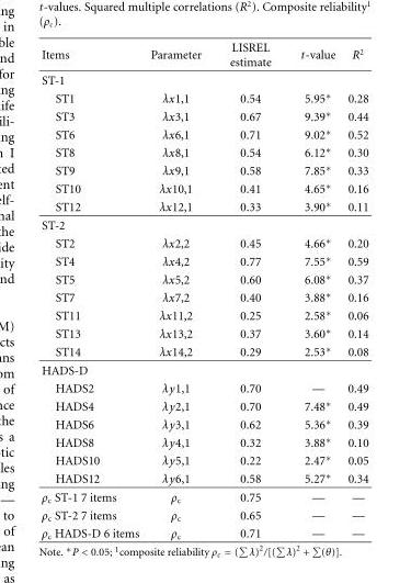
<table><thead><tr><td>Items</td><td>Parameter</td><td>LISREL estimate</td><td>t-value</td><td>R<sup>2</sup></td></tr></thead><tbody><tr><td colspan="5">ST-1</td></tr><tr><td>ST1</td><td>λx1,1</td><td>0.54</td><td>5.95∗</td><td>0.28</td></tr><tr><td>ST3</td><td>λx3,1</td><td>0.67</td><td>9.39∗</td><td>0.44</td></tr><tr><td>ST6</td><td>λx6,1</td><td>0.71</td><td>9.02∗</td><td>0.52</td></tr><tr><td>ST8</td><td>λx8,1</td><td>0.54</td><td>6.12∗</td><td>0.30</td></tr><tr><td>ST9</td><td>λx9,1</td><td>0.58</td><td>7.85∗</td><td>0.33</td></tr><tr><td>ST10</td><td>λx10,1</td><td>0.41</td><td>4.65∗</td><td>0.16</td></tr><tr><td>ST12</td><td>λx12,1</td><td>0.33</td><td>3.90∗</td><td>0.11</td></tr><tr><td colspan="5">ST-2</td></tr><tr><td>ST2</td><td>λx2,2</td><td>0.45</td><td>4.66∗</td><td>0.20</td></tr><tr><td>ST4</td><td>λx4,2</td><td>0.77</td><td>7.55∗</td><td>0.59</td></tr><tr><td>ST5</td><td>λx5,2</td><td>0.60</td><td>6.08∗</td><td>0.37</td></tr><tr><td>ST7</td><td>λx7,2</td><td>0.40</td><td>3.88∗</td><td>0.16</td></tr><tr><td>ST11</td><td>λx11,2</td><td>0.25</td><td>2.58∗</td><td>0.06</td></tr><tr><td>ST13</td><td>λx13,2</td><td>0.37</td><td>3.60∗</td><td>0.14</td></tr><tr><td>ST14</td><td>λx14,2</td><td>0.29</td><td>2.53∗</td><td>0.08</td></tr><tr><td colspan="5">HADS-D</td></tr><tr><td>HADS2</td><td>λy1,1</td><td>0.70</td><td>—</td><td>0.49</td></tr><tr><td>HADS4</td><td>λy2,1</td><td>0.70</td><td>7.48∗</td><td>0.49</td></tr><tr><td>HADS6</td><td>λy3,1</td><td>0.62</td><td>5.36∗</td><td>0.39</td></tr><tr><td>HADS8</td><td>λy4,1</td><td>0.32</td><td>3.88∗</td><td>0.10</td></tr><tr><td>HADS10</td><td>λy5,1</td><td>0.22</td><td>2.47∗</td><td>0.05</td></tr><tr><td>HADS12</td><td>λy6,1</td><td>0.58</td><td>5.27∗</td><td>0.34</td></tr><tr><td>ρ<sub>c</sub> ST-1 7 items</td><td>ρ<sub>c</sub></td><td>0.75</td><td>—</td><td>—</td></tr><tr><td>ρ<sub>c</sub> ST-2 7 items</td><td>ρ<sub>c</sub></td><td>0.65</td><td>—</td><td>—</td></tr><tr><td>ρ<sub>c</sub> HADS-D 6 items</td><td>ρ<sub>c</sub></td><td>0.71</td><td>—</td><td>—</td></tr></tbody></table>